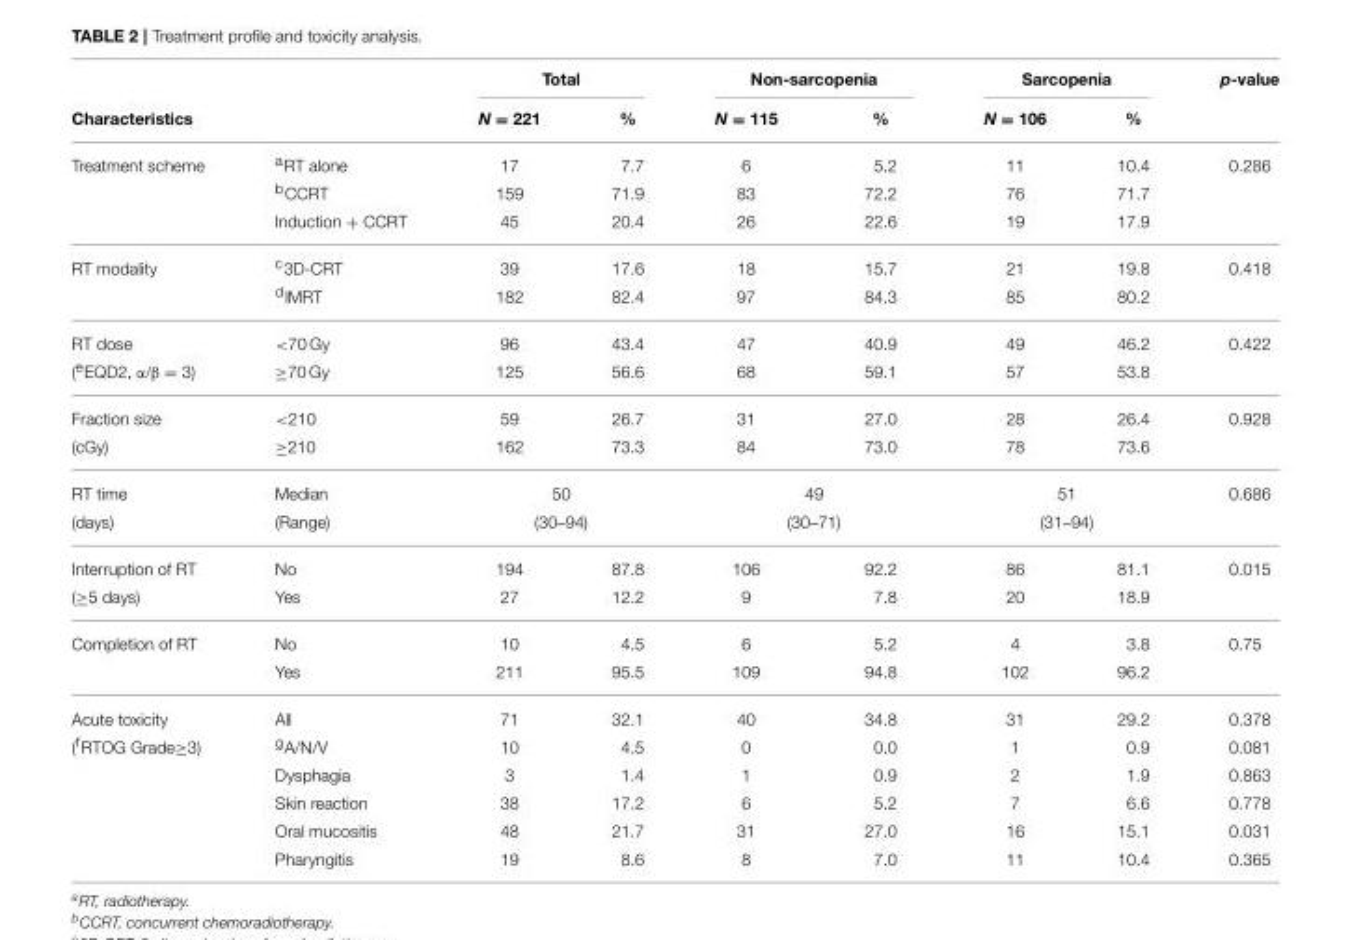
<table><thead><tr><td rowspan="2">Characteristics</td><td rowspan="2"></td><td colspan="2">Total</td><td colspan="2">Non-sarcopenia</td><td colspan="2">Sarcopenia</td><td rowspan="2">p-value</td></tr><tr><td>N = 221</td><td>%</td><td>N = 115</td><td>%</td><td>N = 106</td><td>%</td></tr></thead><tbody><tr><td rowspan="3">Treatment scheme</td><td><sup>a</sup>RT alone</td><td>17</td><td>7.7</td><td>6</td><td>5.2</td><td>11</td><td>10.4</td><td>0.286</td></tr><tr><td><sup>b</sup>CCRT</td><td>159</td><td>71.9</td><td>83</td><td>72.2</td><td>76</td><td>71.7</td><td></td></tr><tr><td>Induction + CCRT</td><td>45</td><td>20.4</td><td>26</td><td>22.6</td><td>19</td><td>17.9</td><td></td></tr><tr><td rowspan="2">RT modality</td><td><sup>c</sup>3D-CRT</td><td>39</td><td>17.6</td><td>18</td><td>15.7</td><td>21</td><td>19.8</td><td>0.418</td></tr><tr><td><sup>d</sup>IMRT</td><td>182</td><td>82.4</td><td>97</td><td>84.3</td><td>85</td><td>80.2</td><td></td></tr><tr><td>RT dose</td><td>&lt;70 Gy</td><td>96</td><td>43.4</td><td>47</td><td>40.9</td><td>49</td><td>46.2</td><td>0.422</td></tr><tr><td>(<sup>e</sup>EQD2, α/β = 3)</td><td>≥70 Gy</td><td>125</td><td>56.6</td><td>68</td><td>59.1</td><td>57</td><td>53.8</td><td></td></tr><tr><td>Fraction size</td><td>&lt;210</td><td>59</td><td>26.7</td><td>31</td><td>27.0</td><td>28</td><td>26.4</td><td>0.928</td></tr><tr><td>(cGy)</td><td>≥210</td><td>162</td><td>73.3</td><td>84</td><td>73.0</td><td>78</td><td>73.6</td><td></td></tr><tr><td>RT time</td><td>Median</td><td colspan="2">50</td><td colspan="2">49</td><td colspan="2">51</td><td>0.686</td></tr><tr><td>(days)</td><td>(Range)</td><td colspan="2">(30–94)</td><td colspan="2">(30–71)</td><td colspan="2">(31–94)</td><td></td></tr><tr><td>Interruption of RT</td><td>No</td><td>194</td><td>87.8</td><td>106</td><td>92.2</td><td>86</td><td>81.1</td><td>0.015</td></tr><tr><td>(≥5 days)</td><td>Yes</td><td>27</td><td>12.2</td><td>9</td><td>7.8</td><td>20</td><td>18.9</td><td></td></tr><tr><td rowspan="2">Completion of RT</td><td>No</td><td>10</td><td>4.5</td><td>6</td><td>5.2</td><td>4</td><td>3.8</td><td>0.75</td></tr><tr><td>Yes</td><td>211</td><td>95.5</td><td>109</td><td>94.8</td><td>102</td><td>96.2</td><td></td></tr><tr><td>Acute toxicity</td><td>All</td><td>71</td><td>32.1</td><td>40</td><td>34.8</td><td>31</td><td>29.2</td><td>0.378</td></tr><tr><td rowspan="5">(<sup>f</sup>RTOG Grade≥3)</td><td><sup>g</sup>A/N/V</td><td>10</td><td>4.5</td><td>0</td><td>0.0</td><td>1</td><td>0.9</td><td>0.081</td></tr><tr><td>Dysphagia</td><td>3</td><td>1.4</td><td>1</td><td>0.9</td><td>2</td><td>1.9</td><td>0.863</td></tr><tr><td>Skin reaction</td><td>38</td><td>17.2</td><td>6</td><td>5.2</td><td>7</td><td>6.6</td><td>0.778</td></tr><tr><td>Oral mucositis</td><td>48</td><td>21.7</td><td>31</td><td>27.0</td><td>16</td><td>15.1</td><td>0.031</td></tr><tr><td>Pharyngitis</td><td>19</td><td>8.6</td><td>8</td><td>7.0</td><td>11</td><td>10.4</td><td>0.365</td></tr></tbody></table>